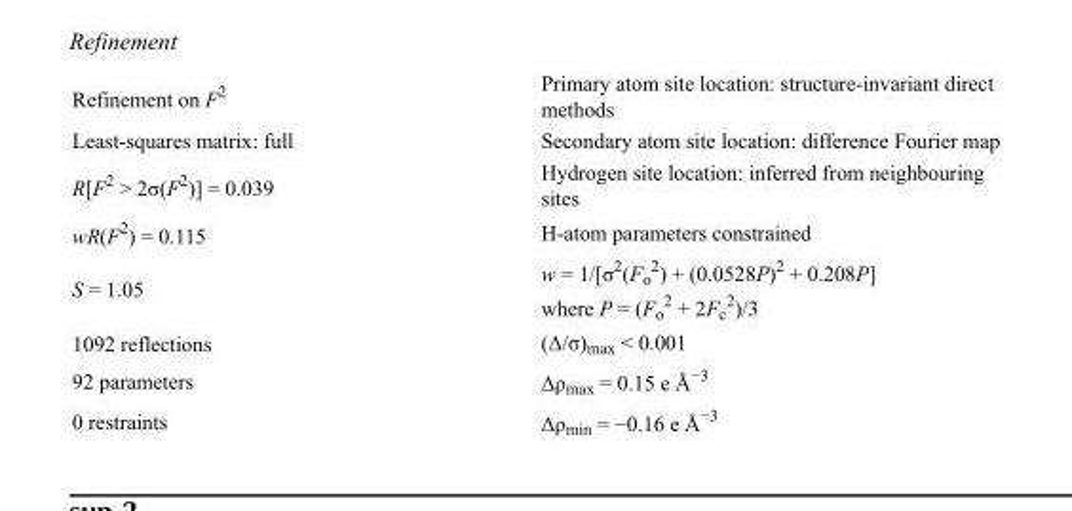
<table><tbody><tr><td>Refinement on F<sup>2</sup></td><td>Primary atom site location: structure-invariant direct methods</td></tr><tr><td>Least-squares matrix: full</td><td>Secondary atom site location: difference Fourier map</td></tr><tr><td>R[F<sup>2</sup> &gt; 2σ(F<sup>2</sup>)] = 0.039</td><td>Hydrogen site location: inferred from neighbouring sites</td></tr><tr><td>wR(F<sup>2</sup>) = 0.115</td><td>H-atom parameters constrained</td></tr><tr><td>S = 1.05</td><td>w = 1/[σ<sup>2</sup>(F<sub>o</sub> <sup>2</sup>) + (0.0528P)<sup>2</sup> + 0.208P] where P = (F<sub>o</sub> <sup>2</sup> + 2F<sub>c</sub> <sup>2</sup>)/3</td></tr><tr><td>1092 reflections</td><td>(Δ/σ)<sub>max</sub> &lt; 0.001</td></tr><tr><td>92 parameters</td><td>Δρ<sub>max</sub> = 0.15 e Å<sup>−3</sup></td></tr><tr><td>0 restraints</td><td>Δρ<sub>min</sub> = −0.16 e Å<sup>−3</sup></td></tr></tbody></table>